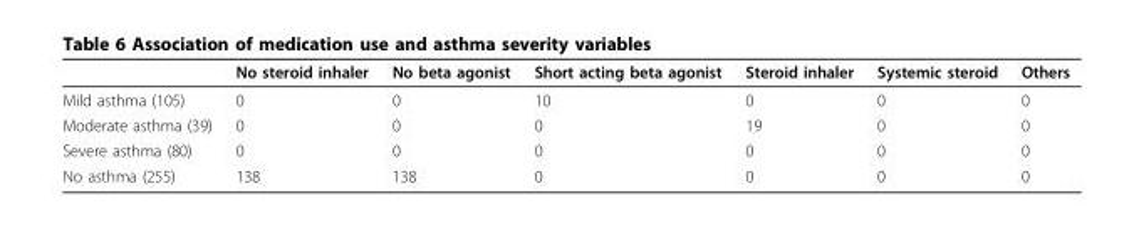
<table><thead><tr><td></td><td>No steroid inhaler</td><td>No beta agonist</td><td>Short acting beta agonist</td><td>Steroid inhaler</td><td>Systemic steroid</td><td>Others</td></tr></thead><tbody><tr><td>Mild asthma (105)</td><td>0</td><td>0</td><td>10</td><td>0</td><td>0</td><td>0</td></tr><tr><td>Moderate asthma (39)</td><td>0</td><td>0</td><td>0</td><td>19</td><td>0</td><td>0</td></tr><tr><td>Severe asthma (80)</td><td>0</td><td>0</td><td>0</td><td>0</td><td>0</td><td>0</td></tr><tr><td>No asthma (255)</td><td>138</td><td>138</td><td>0</td><td>0</td><td>0</td><td>0</td></tr></tbody></table>